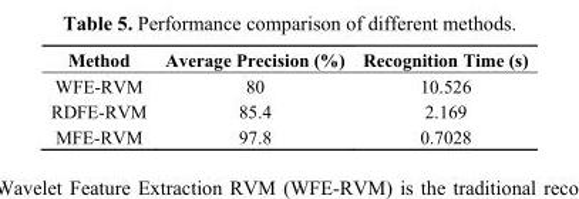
<table><thead><tr><td>Method</td><td>Average Precision (%)</td><td>Recognition Time (s)</td></tr></thead><tbody><tr><td>WFE-RVM</td><td>80</td><td>10.526</td></tr><tr><td>RDFE-RVM</td><td>85.4</td><td>2.169</td></tr><tr><td>MFE-RVM</td><td>97.8</td><td>0.7028</td></tr></tbody></table>